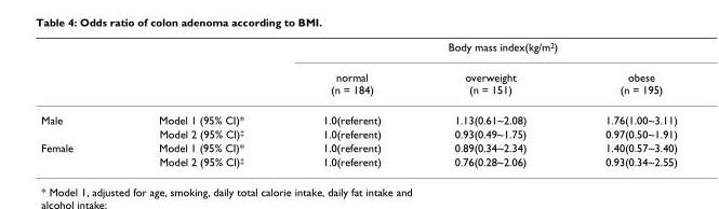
<table><thead><tr><td rowspan="2"></td><td rowspan="2"></td><td colspan="3">Body mass index(kg/m<sup>2</sup>)</td></tr><tr><td>normal (n = 184)</td><td>overweight (n = 151)</td><td>obese (n = 195)</td></tr></thead><tbody><tr><td rowspan="2">Male</td><td>Model 1 (95% CI)*</td><td>1.0(referent)</td><td>1.13(0.61~2.08)</td><td>1.76(1.00~3.11)</td></tr><tr><td>Model 2 (95% CI)<sup>‡</sup></td><td>1.0(referent)</td><td>0.93(0.49~1.75)</td><td>0.97(0.50~1.91)</td></tr><tr><td rowspan="2">Female</td><td>Model 1 (95% CI)*</td><td>1.0(referent)</td><td>0.89(0.34~2.34)</td><td>1.40(0.57~3.40)</td></tr><tr><td>Model 2 (95% CI)<sup>‡</sup></td><td>1.0(referent)</td><td>0.76(0.28~2.06)</td><td>0.93(0.34~2.55)</td></tr></tbody></table>